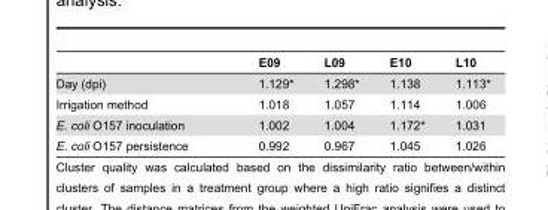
<table><thead><tr><td></td><td>E09</td><td>L09</td><td>E10</td><td>L10</td></tr></thead><tbody><tr><td>Day (dpi)</td><td>1.129*</td><td>1.298*</td><td>1.138</td><td>1.113*</td></tr><tr><td>Irrigation method</td><td>1.018</td><td>1.057</td><td>1.114</td><td>1.006</td></tr><tr><td>E. coli O157 inoculation</td><td>1.002</td><td>1.004</td><td>1.172*</td><td>1.031</td></tr><tr><td>E. coli O157 persistence</td><td>0.992</td><td>0.967</td><td>1.045</td><td>1.026</td></tr></tbody></table>